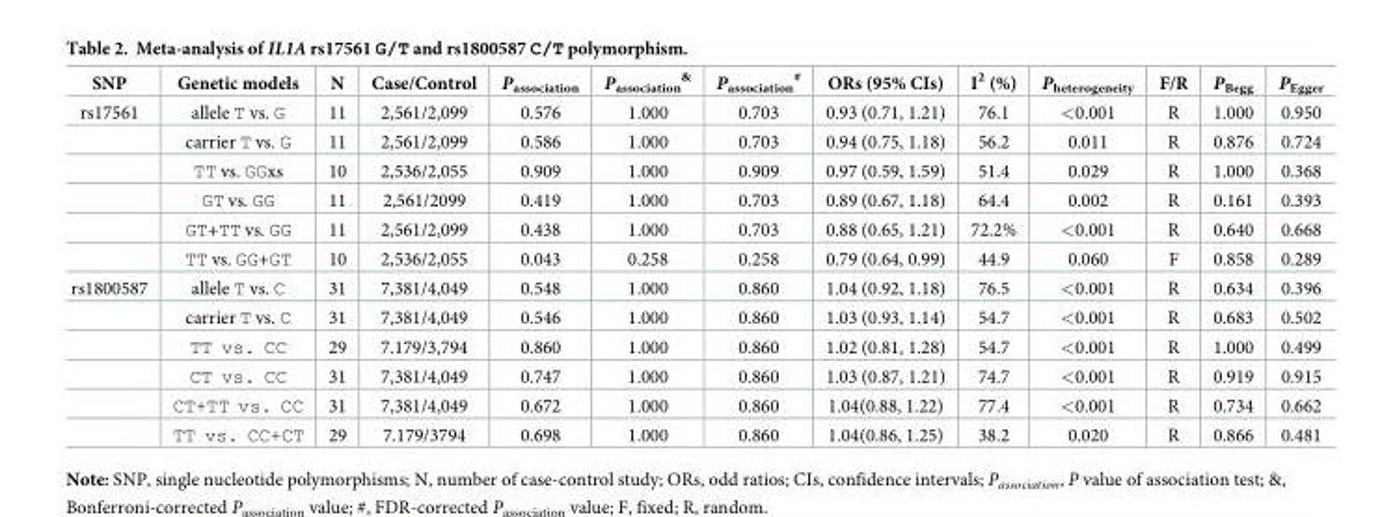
<table><thead><tr><td>SNP</td><td>Genetic models</td><td>N</td><td>Case/Control</td><td>P<sub>association</sub></td><td>P<sub>association</sub> <sup>&amp;</sup></td><td>P<sub>association</sub> <sup>#</sup></td><td>ORs (95% CIs)</td><td>I<sup>2</sup> (%)</td><td>P<sub>heterogeneity</sub></td><td>F/R</td><td>P<sub>Begg</sub></td><td>P<sub>Egger</sub></td></tr></thead><tbody><tr><td rowspan="6">rs17561</td><td>allele T vs. G</td><td>11</td><td>2,561/2,099</td><td>0.576</td><td>1.000</td><td>0.703</td><td>0.93 (0.71, 1.21)</td><td>76.1</td><td>&lt;0.001</td><td>R</td><td>1.000</td><td>0.950</td></tr><tr><td>carrier T vs. G</td><td>11</td><td>2,561/2,099</td><td>0.586</td><td>1.000</td><td>0.703</td><td>0.94 (0.75, 1.18)</td><td>56.2</td><td>0.011</td><td>R</td><td>0.876</td><td>0.724</td></tr><tr><td>TT vs. GGxs</td><td>10</td><td>2,536/2,055</td><td>0.909</td><td>1.000</td><td>0.909</td><td>0.97 (0.59, 1.59)</td><td>51.4</td><td>0.029</td><td>R</td><td>1.000</td><td>0.368</td></tr><tr><td>GT vs. GG</td><td>11</td><td>2,561/2099</td><td>0.419</td><td>1.000</td><td>0.703</td><td>0.89 (0.67, 1.18)</td><td>64.4</td><td>0.002</td><td>R</td><td>0.161</td><td>0.393</td></tr><tr><td>GT+TT vs. GG</td><td>11</td><td>2,561/2,099</td><td>0.438</td><td>1.000</td><td>0.703</td><td>0.88 (0.65, 1.21)</td><td>72.2%</td><td>&lt;0.001</td><td>R</td><td>0.640</td><td>0.668</td></tr><tr><td>TT vs. GG+GT</td><td>10</td><td>2,536/2,055</td><td>0.043</td><td>0.258</td><td>0.258</td><td>0.79 (0.64, 0.99)</td><td>44.9</td><td>0.060</td><td>F</td><td>0.858</td><td>0.289</td></tr><tr><td rowspan="6">rs1800587</td><td>allele T vs. C</td><td>31</td><td>7,381/4,049</td><td>0.548</td><td>1.000</td><td>0.860</td><td>1.04 (0.92, 1.18)</td><td>76.5</td><td>&lt;0.001</td><td>R</td><td>0.634</td><td>0.396</td></tr><tr><td>carrier T vs. C</td><td>31</td><td>7,381/4,049</td><td>0.546</td><td>1.000</td><td>0.860</td><td>1.03 (0.93, 1.14)</td><td>54.7</td><td>&lt;0.001</td><td>R</td><td>0.683</td><td>0.502</td></tr><tr><td>TT vs. CC</td><td>29</td><td>7.179/3,794</td><td>0.860</td><td>1.000</td><td>0.860</td><td>1.02 (0.81, 1.28)</td><td>54.7</td><td>&lt;0.001</td><td>R</td><td>1.000</td><td>0.499</td></tr><tr><td>CT vs. CC</td><td>31</td><td>7,381/4,049</td><td>0.747</td><td>1.000</td><td>0.860</td><td>1.03 (0.87, 1.21)</td><td>74.7</td><td>&lt;0.001</td><td>R</td><td>0.919</td><td>0.915</td></tr><tr><td>CT+TT vs. CC</td><td>31</td><td>7,381/4,049</td><td>0.672</td><td>1.000</td><td>0.860</td><td>1.04(0.88, 1.22)</td><td>77.4</td><td>&lt;0.001</td><td>R</td><td>0.734</td><td>0.662</td></tr><tr><td>TT vs. CC+CT</td><td>29</td><td>7.179/3794</td><td>0.698</td><td>1.000</td><td>0.860</td><td>1.04(0.86, 1.25)</td><td>38.2</td><td>0.020</td><td>R</td><td>0.866</td><td>0.481</td></tr></tbody></table>